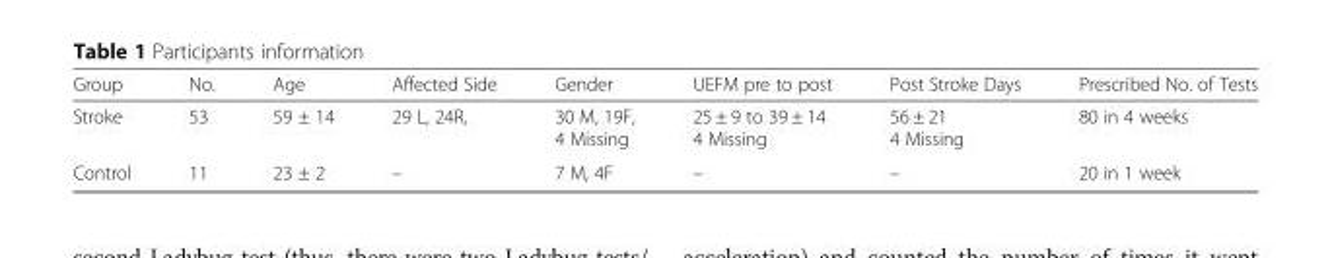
<table><thead><tr><td>Group</td><td>No.</td><td>Age</td><td>Affected Side</td><td>Gender</td><td>UEFM pre to post</td><td>Post Stroke Days</td><td>Prescribed No. of Tests</td></tr></thead><tbody><tr><td>Stroke</td><td>53</td><td>59 ± 14</td><td>29 L, 24R,</td><td>30 M, 19F, 4 Missing</td><td>25 ± 9 to 39 ± 14 4 Missing</td><td>56 ± 21 4 Missing</td><td>80 in 4 weeks</td></tr><tr><td>Control</td><td>11</td><td>23 ± 2</td><td>–</td><td>7 M, 4F</td><td>–</td><td>–</td><td>20 in 1 week</td></tr></tbody></table>